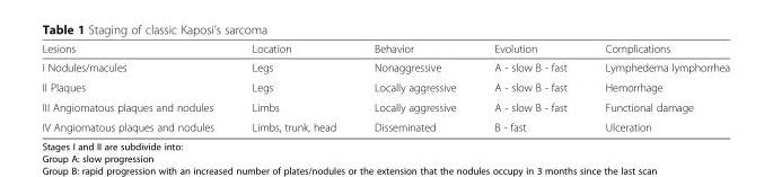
<table><thead><tr><td>Lesions</td><td>Location</td><td>Behavior</td><td>Evolution</td><td>Complications</td></tr></thead><tbody><tr><td>I Nodules/macules</td><td>Legs</td><td>Nonaggressive</td><td>A - slow B - fast</td><td>Lymphedema lymphorrhea</td></tr><tr><td>II Plaques</td><td>Legs</td><td>Locally aggressive</td><td>A - slow B - fast</td><td>Hemorrhage</td></tr><tr><td>III Angiomatous plaques and nodules</td><td>Limbs</td><td>Locally aggressive</td><td>A - slow B - fast</td><td>Functional damage</td></tr><tr><td>IV Angiomatous plaques and nodules</td><td>Limbs, trunk, head</td><td>Disseminated</td><td>B - fast</td><td>Ulceration</td></tr></tbody></table>